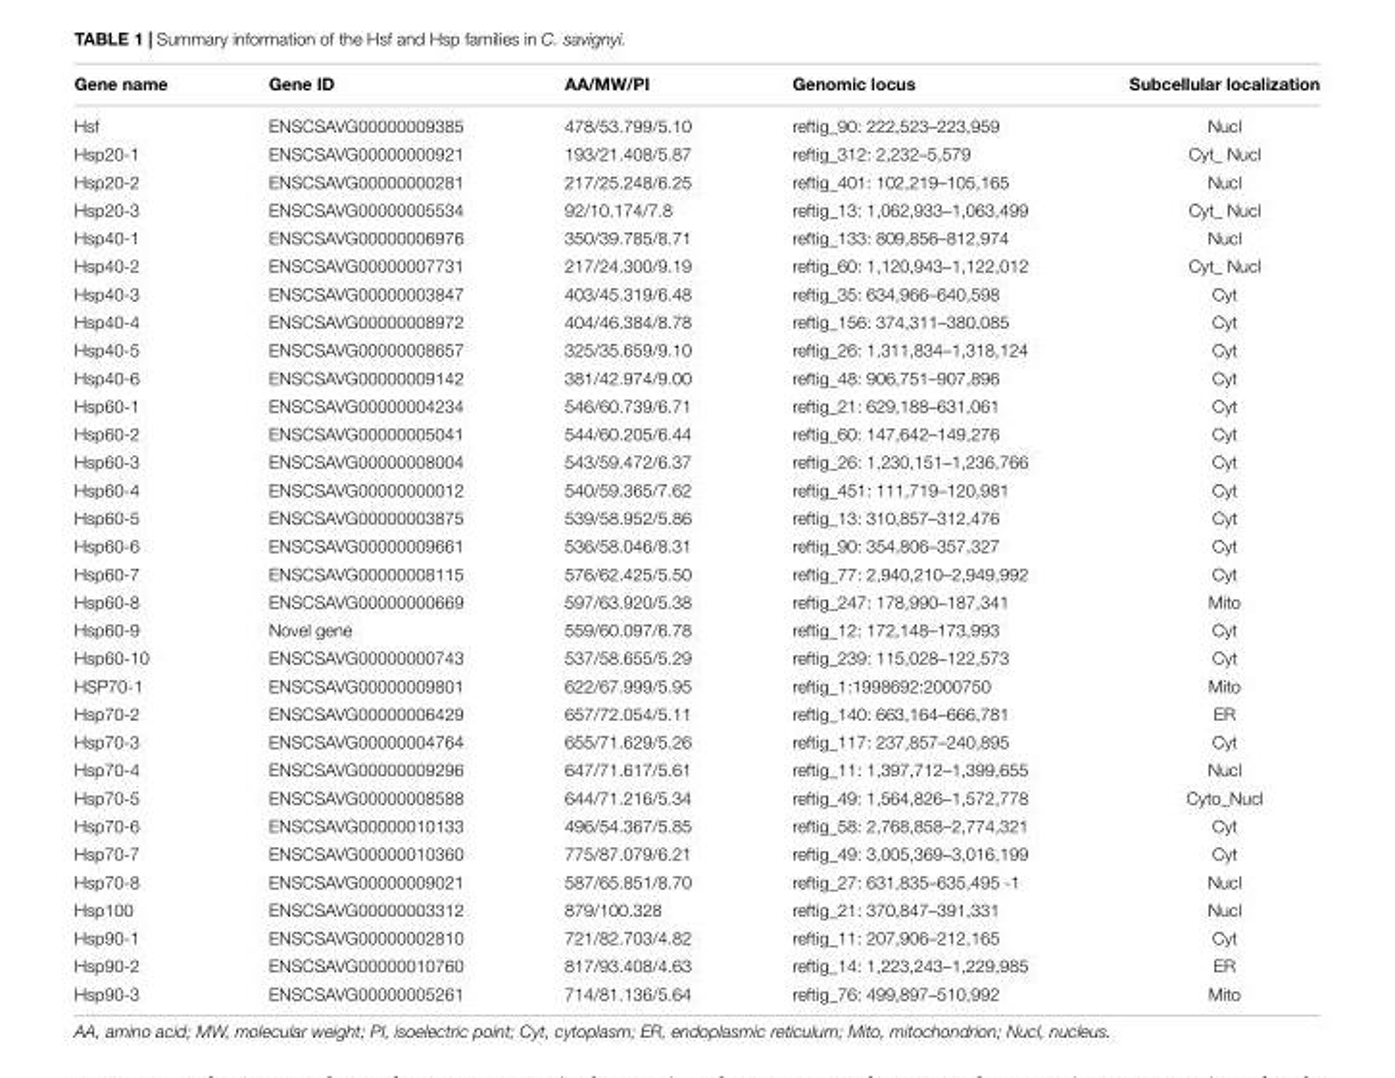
<table><thead><tr><td>Gene name</td><td>Gene ID</td><td>AA/MW/PI</td><td>Genomic locus</td><td>Subcellular localization</td></tr></thead><tbody><tr><td>Hsf</td><td>ENSCSAVG00000009385</td><td>478/53.799/5.10</td><td>reftig_90: 222,523–223,959</td><td>Nucl</td></tr><tr><td>Hsp20-1</td><td>ENSCSAVG00000000921</td><td>193/21.408/5.87</td><td>reftig_312: 2,232–5,579</td><td>Cyt_ Nucl</td></tr><tr><td>Hsp20-2</td><td>ENSCSAVG00000000281</td><td>217/25.248/6.25</td><td>reftig_401: 102,219–105,165</td><td>Nucl</td></tr><tr><td>Hsp20-3</td><td>ENSCSAVG00000005534</td><td>92/10.174/7.8</td><td>reftig_13: 1,062,933–1,063,499</td><td>Cyt_ Nucl</td></tr><tr><td>Hsp40-1</td><td>ENSCSAVG00000006976</td><td>350/39.785/8.71</td><td>reftig_133: 809,856–812,974</td><td>Nucl</td></tr><tr><td>Hsp40-2</td><td>ENSCSAVG00000007731</td><td>217/24.300/9.19</td><td>reftig_60: 1,120,943–1,122,012</td><td>Cyt_ Nucl</td></tr><tr><td>Hsp40-3</td><td>ENSCSAVG00000003847</td><td>403/45.319/6.48</td><td>reftig_35: 634,966–640,598</td><td>Cyt</td></tr><tr><td>Hsp40-4</td><td>ENSCSAVG00000008972</td><td>404/46.384/8.78</td><td>reftig_156: 374,311–380,085</td><td>Cyt</td></tr><tr><td>Hsp40-5</td><td>ENSCSAVG00000008657</td><td>325/35.659/9.10</td><td>reftig_26: 1,311,834–1,318,124</td><td>Cyt</td></tr><tr><td>Hsp40-6</td><td>ENSCSAVG00000009142</td><td>381/42.974/9.00</td><td>reftig_48: 906,751–907,896</td><td>Cyt</td></tr><tr><td>Hsp60-1</td><td>ENSCSAVG00000004234</td><td>546/60.739/6.71</td><td>reftig_21: 629,188–631,061</td><td>Cyt</td></tr><tr><td>Hsp60-2</td><td>ENSCSAVG00000005041</td><td>544/60.205/6.44</td><td>reftig_60: 147,642–149,276</td><td>Cyt</td></tr><tr><td>Hsp60-3</td><td>ENSCSAVG00000008004</td><td>543/59.472/6.37</td><td>reftig_26: 1,230,151–1,236,766</td><td>Cyt</td></tr><tr><td>Hsp60-4</td><td>ENSCSAVG00000000012</td><td>540/59.365/7.62</td><td>reftig_451: 111,719–120,981</td><td>Cyt</td></tr><tr><td>Hsp60-5</td><td>ENSCSAVG00000003875</td><td>539/58.952/5.86</td><td>reftig_13: 310,857–312,476</td><td>Cyt</td></tr><tr><td>Hsp60-6</td><td>ENSCSAVG00000009661</td><td>536/58.046/8.31</td><td>reftig_90: 354,806–357,327</td><td>Cyt</td></tr><tr><td>Hsp60-7</td><td>ENSCSAVG00000008115</td><td>576/62.425/5.50</td><td>reftig_77: 2,940,210–2,949,992</td><td>Cyt</td></tr><tr><td>Hsp60-8</td><td>ENSCSAVG00000000669</td><td>597/63.920/5.38</td><td>reftig_247: 178,990–187,341</td><td>Mito</td></tr><tr><td>Hsp60-9</td><td>Novel gene</td><td>559/60.097/6.78</td><td>reftig_12: 172,148–173,993</td><td>Cyt</td></tr><tr><td>Hsp60-10</td><td>ENSCSAVG00000000743</td><td>537/58.655/5.29</td><td>reftig_239: 115,028–122,573</td><td>Cyt</td></tr><tr><td>HSP70-1</td><td>ENSCSAVG00000009801</td><td>622/67.999/5.95</td><td>reftig_1:1998692:2000750</td><td>Mito</td></tr><tr><td>Hsp70-2</td><td>ENSCSAVG00000006429</td><td>657/72.054/5.11</td><td>reftig_140: 663,164–666,781</td><td>ER</td></tr><tr><td>Hsp70-3</td><td>ENSCSAVG00000004764</td><td>655/71.629/5.26</td><td>reftig_117: 237,857–240,895</td><td>Cyt</td></tr><tr><td>Hsp70-4</td><td>ENSCSAVG00000009296</td><td>647/71.617/5.61</td><td>reftig_11: 1,397,712–1,399,655</td><td>Nucl</td></tr><tr><td>Hsp70-5</td><td>ENSCSAVG00000008588</td><td>644/71.216/5.34</td><td>reftig_49: 1,564,826–1,572,778</td><td>Cyto_Nucl</td></tr><tr><td>Hsp70-6</td><td>ENSCSAVG00000010133</td><td>496/54.367/5.85</td><td>reftig_58: 2,768,858–2,774,321</td><td>Cyt</td></tr><tr><td>Hsp70-7</td><td>ENSCSAVG00000010360</td><td>775/87.079/6.21</td><td>reftig_49: 3,005,369–3,016,199</td><td>Cyt</td></tr><tr><td>Hsp70-8</td><td>ENSCSAVG00000009021</td><td>587/65.851/8.70</td><td>reftig_27: 631,835–635,495 -1</td><td>Nucl</td></tr><tr><td>Hsp100</td><td>ENSCSAVG00000003312</td><td>879/100.328</td><td>reftig_21: 370,847–391,331</td><td>Nucl</td></tr><tr><td>Hsp90-1</td><td>ENSCSAVG00000002810</td><td>721/82.703/4.82</td><td>reftig_11: 207,906–212,165</td><td>Cyt</td></tr><tr><td>Hsp90-2</td><td>ENSCSAVG00000010760</td><td>817/93.408/4.63</td><td>reftig_14: 1,223,243–1,229,985</td><td>ER</td></tr><tr><td>Hsp90-3</td><td>ENSCSAVG00000005261</td><td>714/81.136/5.64</td><td>reftig_76: 499,897–510,992</td><td>Mito</td></tr></tbody></table>